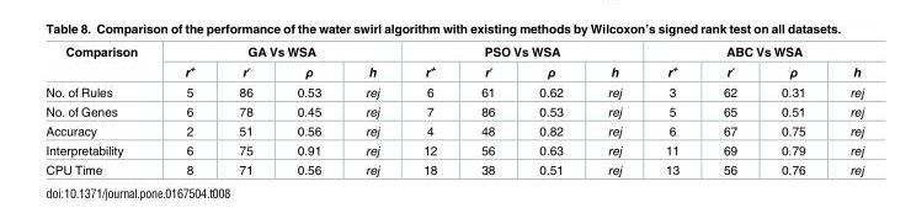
<table><thead><tr><td rowspan="2">Comparison</td><td colspan="4">GA Vs WSA</td><td colspan="4">PSO Vs WSA</td><td colspan="4">ABC Vs WSA</td></tr><tr><td>r<sup>+</sup></td><td>r<sup>-</sup></td><td>ρ</td><td>h</td><td>r<sup>+</sup></td><td>r<sup>-</sup></td><td>ρ</td><td>h</td><td>r<sup>+</sup></td><td>r<sup>-</sup></td><td>ρ</td><td>h</td></tr></thead><tbody><tr><td>No. of Rules</td><td>5</td><td>86</td><td>0.53</td><td>rej</td><td>6</td><td>61</td><td>0.62</td><td>rej</td><td>3</td><td>62</td><td>0.31</td><td>rej</td></tr><tr><td>No. of Genes</td><td>6</td><td>78</td><td>0.45</td><td>rej</td><td>7</td><td>86</td><td>0.53</td><td>rej</td><td>5</td><td>65</td><td>0.51</td><td>rej</td></tr><tr><td>Accuracy</td><td>2</td><td>51</td><td>0.56</td><td>rej</td><td>4</td><td>48</td><td>0.82</td><td>rej</td><td>6</td><td>67</td><td>0.75</td><td>rej</td></tr><tr><td>Interpretability</td><td>6</td><td>75</td><td>0.91</td><td>rej</td><td>12</td><td>56</td><td>0.63</td><td>rej</td><td>11</td><td>69</td><td>0.79</td><td>rej</td></tr><tr><td>CPU Time</td><td>8</td><td>71</td><td>0.56</td><td>rej</td><td>18</td><td>38</td><td>0.51</td><td>rej</td><td>13</td><td>56</td><td>0.76</td><td>rej</td></tr></tbody></table>